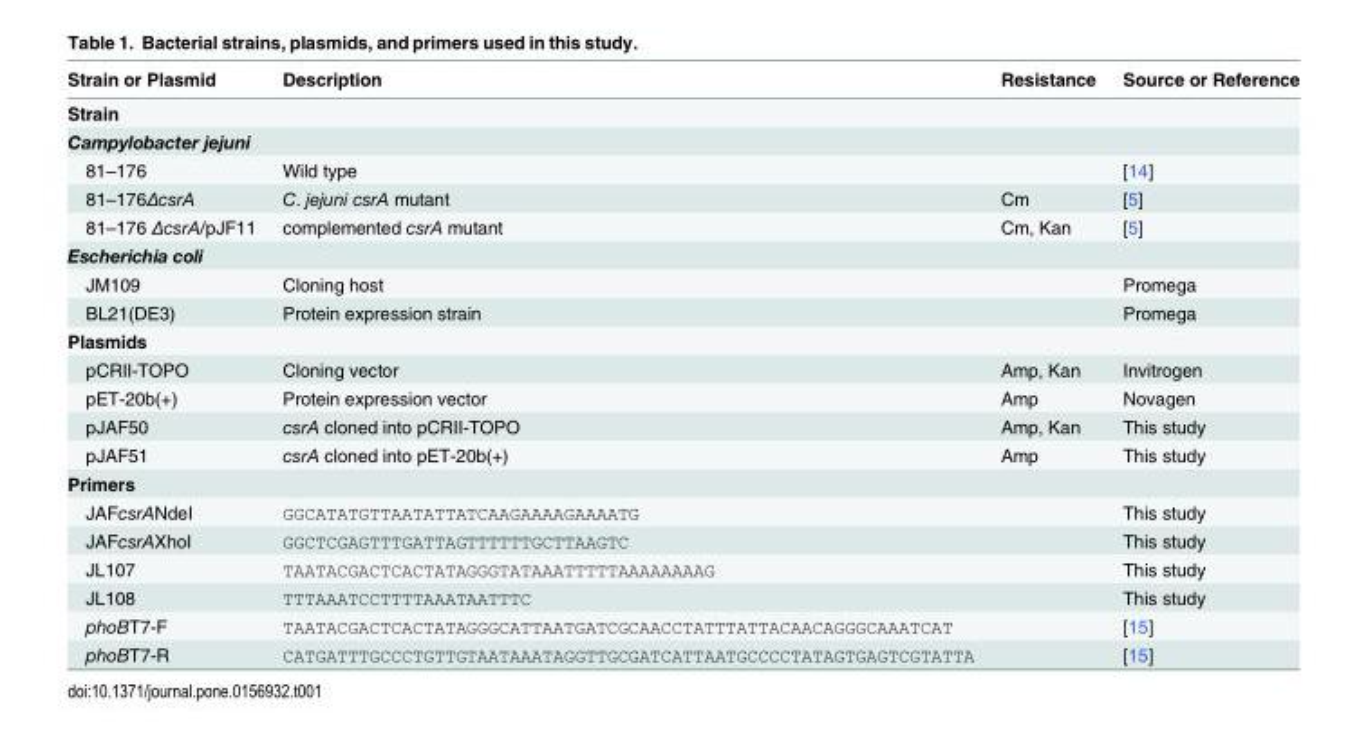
<table><thead><tr><td>Strain or Plasmid</td><td>Description</td><td>Resistance</td><td>Source or Reference</td></tr></thead><tbody><tr><td colspan="4">Strain</td></tr><tr><td colspan="4">Campylobacter jejuni</td></tr><tr><td>81–176</td><td>Wild type</td><td></td><td>[14]</td></tr><tr><td>81–176ΔcsrA</td><td>C. jejuni csrA mutant</td><td>Cm</td><td>[5]</td></tr><tr><td>81–176 ΔcsrA/pJF11</td><td>complemented csrA mutant</td><td>Cm, Kan</td><td>[5]</td></tr><tr><td colspan="4">Escherichia coli</td></tr><tr><td>JM109</td><td>Cloning host</td><td></td><td>Promega</td></tr><tr><td>BL21(DE3)</td><td>Protein expression strain</td><td></td><td>Promega</td></tr><tr><td colspan="4">Plasmids</td></tr><tr><td>pCRII-TOPO</td><td>Cloning vector</td><td>Amp, Kan</td><td>Invitrogen</td></tr><tr><td>pET-20b(+)</td><td>Protein expression vector</td><td>Amp</td><td>Novagen</td></tr><tr><td>pJAF50</td><td>csrA cloned into pCRII-TOPO</td><td>Amp, Kan</td><td>This study</td></tr><tr><td>pJAF51</td><td>csrA cloned into pET-20b(+)</td><td>Amp</td><td>This study</td></tr><tr><td colspan="4">Primers</td></tr><tr><td>JAFcsrANdeI</td><td>GGCATATGTTAATATTATCAAGAAAAGAAAATG</td><td></td><td>This study</td></tr><tr><td>JAFcsrAXhoI</td><td>GGCTCGAGTTTGATTAGTTTTTTGCTTAAGTC</td><td></td><td>This study</td></tr><tr><td>JL107</td><td>TAATACGACTCACTATAGGGTATAAATTTTTAAAAAAAAG</td><td></td><td>This study</td></tr><tr><td>JL108</td><td>TTTAAATCCTTTTAAATAATTTC</td><td></td><td>This study</td></tr><tr><td>phoBT7-F</td><td>TAATACGACTCACTATAGGGCATTAATGATCGCAACCTATTTATTACAACAGGGCAAATCAT</td><td></td><td>[15]</td></tr><tr><td>phoBT7-R</td><td>CATGATTTGCCCTGTTGTAATAAATAGGTTGCGATCATTAATGCCCCTATAGTGAGTCGTATTA</td><td></td><td>[15]</td></tr></tbody></table>